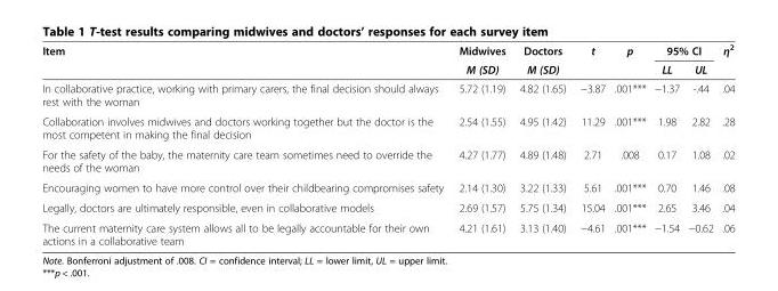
<table><thead><tr><td rowspan="2">Item</td><td rowspan="2">Midwives M (SD)</td><td rowspan="2">Doctors M (SD)</td><td rowspan="2">t</td><td rowspan="2">p</td><td colspan="2">95% CI</td><td rowspan="2">η<sup>2</sup></td></tr><tr><td>LL</td><td>UL</td></tr></thead><tbody><tr><td>In collaborative practice, working with primary carers, the final decision should always rest with the woman</td><td>5.72 (1.19)</td><td>4.82 (1.65)</td><td>−3.87</td><td>.001***</td><td>−1.37</td><td>-.44</td><td>.04</td></tr><tr><td>Collaboration involves midwives and doctors working together but the doctor is the most competent in making the final decision</td><td>2.54 (1.55)</td><td>4.95 (1.42)</td><td>11.29</td><td>.001***</td><td>1.98</td><td>2.82</td><td>.28</td></tr><tr><td>For the safety of the baby, the maternity care team sometimes need to override the needs of the woman</td><td>4.27 (1.77)</td><td>4.89 (1.48)</td><td>2.71</td><td>.008</td><td>0.17</td><td>1.08</td><td>.02</td></tr><tr><td>Encouraging women to have more control over their childbearing compromises safety</td><td>2.14 (1.30)</td><td>3.22 (1.33)</td><td>5.61</td><td>.001***</td><td>0.70</td><td>1.46</td><td>.08</td></tr><tr><td>Legally, doctors are ultimately responsible, even in collaborative models</td><td>2.69 (1.57)</td><td>5.75 (1.34)</td><td>15.04</td><td>.001***</td><td>2.65</td><td>3.46</td><td>.04</td></tr><tr><td>The current maternity care system allows all to be legally accountable for their own actions in a collaborative team</td><td>4.21 (1.61)</td><td>3.13 (1.40)</td><td>−4.61</td><td>.001***</td><td>−1.54</td><td>−0.62</td><td>.06</td></tr></tbody></table>